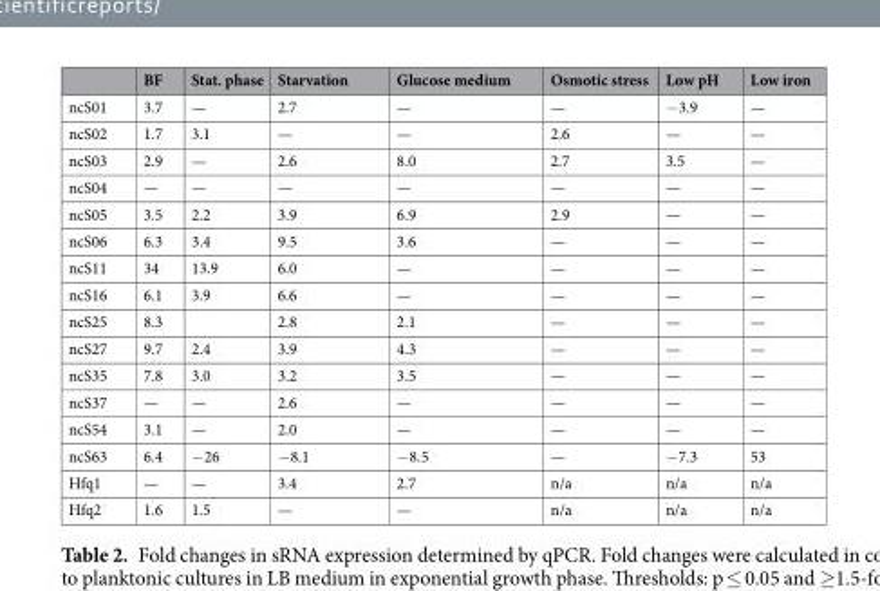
<table><thead><tr><td></td><td>BF</td><td>Stat. phase</td><td>Starvation</td><td>Glucose medium</td><td>Osmotic stress</td><td>Low pH</td><td>Low iron</td></tr></thead><tbody><tr><td>ncS01</td><td>3.7</td><td>—</td><td>2.7</td><td>—</td><td>—</td><td>−3.9</td><td>—</td></tr><tr><td>ncS02</td><td>1.7</td><td>3.1</td><td>—</td><td>—</td><td>2.6</td><td>—</td><td>—</td></tr><tr><td>ncS03</td><td>2.9</td><td>—</td><td>2.6</td><td>8.0</td><td>2.7</td><td>3.5</td><td>—</td></tr><tr><td>ncS04</td><td>—</td><td>—</td><td>—</td><td>—</td><td>—</td><td>—</td><td>—</td></tr><tr><td>ncS05</td><td>3.5</td><td>2.2</td><td>3.9</td><td>6.9</td><td>2.9</td><td>—</td><td>—</td></tr><tr><td>ncS06</td><td>6.3</td><td>3.4</td><td>9.5</td><td>3.6</td><td>—</td><td>—</td><td>—</td></tr><tr><td>ncS11</td><td>34</td><td>13.9</td><td>6.0</td><td>—</td><td>—</td><td>—</td><td>—</td></tr><tr><td>ncS16</td><td>6.1</td><td>3.9</td><td>6.6</td><td>—</td><td>—</td><td>—</td><td>—</td></tr><tr><td>ncS25</td><td>8.3</td><td></td><td>2.8</td><td>2.1</td><td>—</td><td>—</td><td>—</td></tr><tr><td>ncS27</td><td>9.7</td><td>2.4</td><td>3.9</td><td>4.3</td><td>—</td><td>—</td><td>—</td></tr><tr><td>ncS35</td><td>7.8</td><td>3.0</td><td>3.2</td><td>3.5</td><td>—</td><td>—</td><td>—</td></tr><tr><td>ncS37</td><td>—</td><td>—</td><td>2.6</td><td>—</td><td>—</td><td>—</td><td>—</td></tr><tr><td>ncS54</td><td>3.1</td><td>—</td><td>2.0</td><td>—</td><td>—</td><td>—</td><td>—</td></tr><tr><td>ncS63</td><td>6.4</td><td>−26</td><td>−8.1</td><td>−8.5</td><td>—</td><td>−7.3</td><td>53</td></tr><tr><td>Hfq1</td><td>—</td><td>—</td><td>3.4</td><td>2.7</td><td>n/a</td><td>n/a</td><td>n/a</td></tr><tr><td>Hfq2</td><td>1.6</td><td>1.5</td><td>—</td><td>—</td><td>n/a</td><td>n/a</td><td>n/a</td></tr></tbody></table>